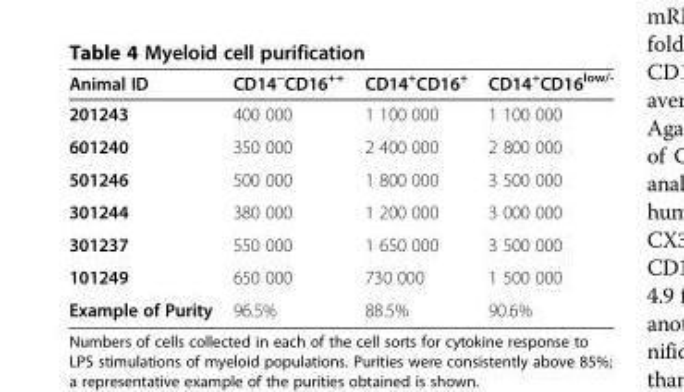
<table><thead><tr><td>Animal ID</td><td>CD14<sup>−</sup>CD16<sup>++</sup></td><td>CD14<sup>+</sup>CD16<sup>+</sup></td><td>CD14<sup>+</sup>CD16<sup>low/-</sup></td></tr></thead><tbody><tr><td>201243</td><td>400 000</td><td>1 100 000</td><td>1 100 000</td></tr><tr><td>601240</td><td>350 000</td><td>2 400 000</td><td>2 800 000</td></tr><tr><td>501246</td><td>500 000</td><td>1 800 000</td><td>3 500 000</td></tr><tr><td>301244</td><td>380 000</td><td>1 200 000</td><td>3 000 000</td></tr><tr><td>301237</td><td>550 000</td><td>1 650 000</td><td>3 500 000</td></tr><tr><td>101249</td><td>650 000</td><td>730 000</td><td>1 500 000</td></tr><tr><td>Example of Purity</td><td>96.5%</td><td>88.5%</td><td>90.6%</td></tr></tbody></table>